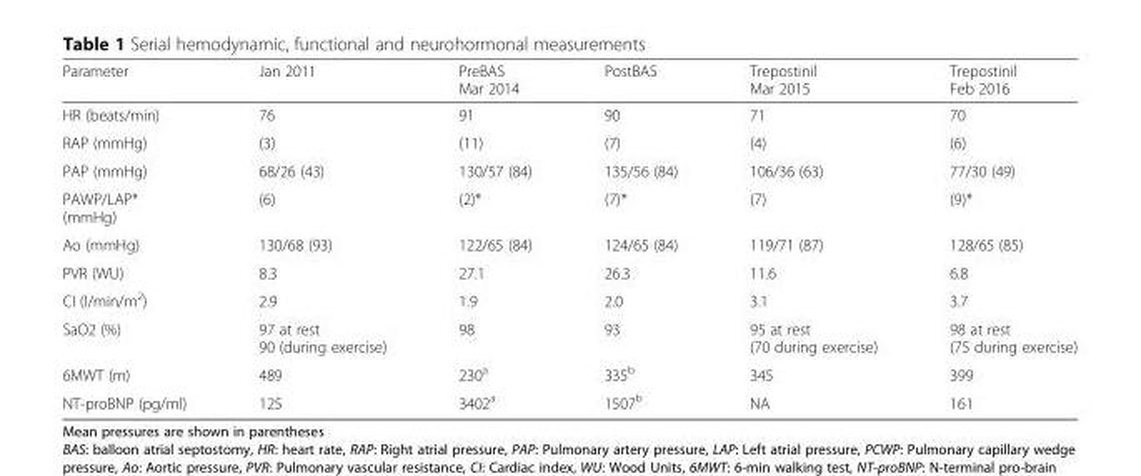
<table><thead><tr><td>Parameter</td><td>Jan 2011</td><td>PreBAS Mar 2014</td><td>PostBAS</td><td>Trepostinil Mar 2015</td><td>Trepostinil Feb 2016</td></tr></thead><tbody><tr><td>HR (beats/min)</td><td>76</td><td>91</td><td>90</td><td>71</td><td>70</td></tr><tr><td>RAP (mmHg)</td><td>(3)</td><td>(11)</td><td>(7)</td><td>(4)</td><td>(6)</td></tr><tr><td>PAP (mmHg)</td><td>68/26 (43)</td><td>130/57 (84)</td><td>135/56 (84)</td><td>106/36 (63)</td><td>77/30 (49)</td></tr><tr><td>PAWP/LAP* (mmHg)</td><td>(6)</td><td>(2)*</td><td>(7)*</td><td>(7)</td><td>(9)*</td></tr><tr><td>Ao (mmHg)</td><td>130/68 (93)</td><td>122/65 (84)</td><td>124/65 (84)</td><td>119/71 (87)</td><td>128/65 (85)</td></tr><tr><td>PVR (WU)</td><td>8.3</td><td>27.1</td><td>26.3</td><td>11.6</td><td>6.8</td></tr><tr><td>CI (l/min/m<sup>2</sup>)</td><td>2.9</td><td>1.9</td><td>2.0</td><td>3.1</td><td>3.7</td></tr><tr><td>SaO2 (%)</td><td>97 at rest 90 (during exercise)</td><td>98</td><td>93</td><td>95 at rest (70 during exercise)</td><td>98 at rest (75 during exercise)</td></tr><tr><td>6MWT (m)</td><td>489</td><td>230<sup>a</sup></td><td>335<sup>b</sup></td><td>345</td><td>399</td></tr><tr><td>NT-proBNP (pg/ml)</td><td>125</td><td>3402<sup>a</sup></td><td>1507<sup>b</sup></td><td>NA</td><td>161</td></tr></tbody></table>